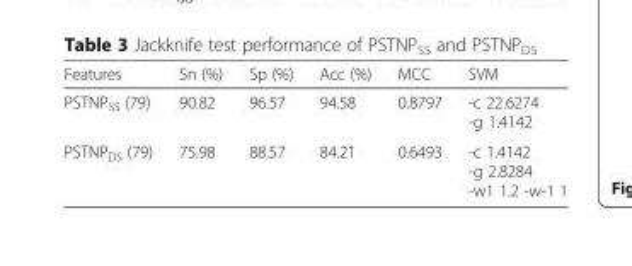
<table><thead><tr><td>Features</td><td>Sn (%)</td><td>Sp (%)</td><td>Acc (%)</td><td>MCC</td><td>SVM</td></tr></thead><tbody><tr><td>PSTNP<sub>SS</sub> (79)</td><td>90.82</td><td>96.57</td><td>94.58</td><td>0.8797</td><td>-c 22.6274 -g 1.4142</td></tr><tr><td>PSTNP<sub>DS</sub> (79)</td><td>75.98</td><td>88.57</td><td>84.21</td><td>0.6493</td><td>-c 1.4142 -g 2.8284 -w1 1.2 -w-1 1</td></tr></tbody></table>